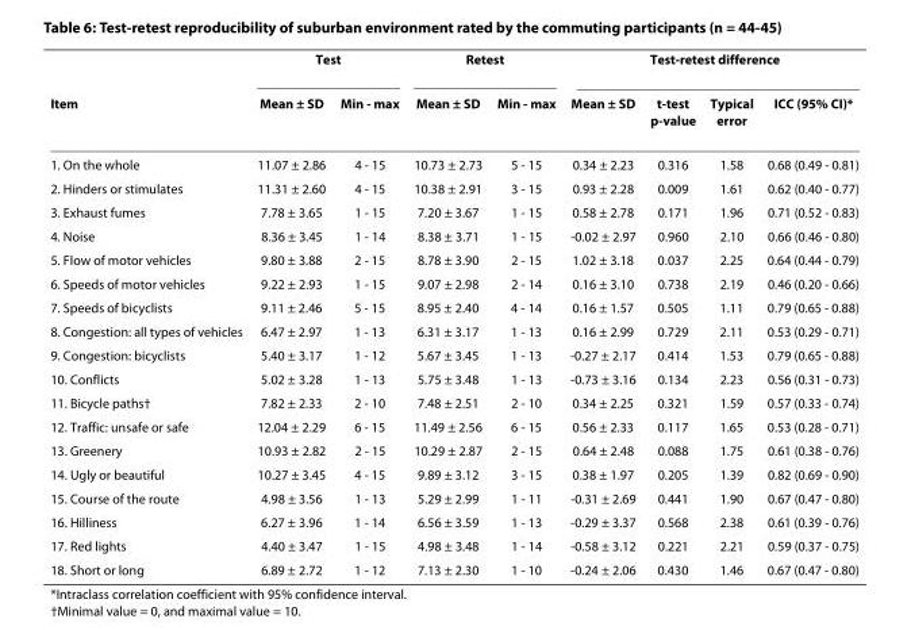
<table><thead><tr><td rowspan="2">Item</td><td colspan="2">Test</td><td colspan="2">Retest</td><td colspan="4">Test-retest difference</td></tr><tr><td>Mean ± SD</td><td>Min - max</td><td>Mean ± SD</td><td>Min - max</td><td>Mean ± SD</td><td>t-test p-value</td><td>Typical error</td><td>ICC (95% CI)*</td></tr></thead><tbody><tr><td>1. On the whole</td><td>11.07 ± 2.86</td><td>4 - 15</td><td>10.73 ± 2.73</td><td>5 - 15</td><td>0.34 ± 2.23</td><td>0.316</td><td>1.58</td><td>0.68 (0.49 - 0.81)</td></tr><tr><td>2. Hinders or stimulates</td><td>11.31 ± 2.60</td><td>4 - 15</td><td>10.38 ± 2.91</td><td>3 - 15</td><td>0.93 ± 2.28</td><td>0.009</td><td>1.61</td><td>0.62 (0.40 - 0.77)</td></tr><tr><td>3. Exhaust fumes</td><td>7.78 ± 3.65</td><td>1 - 15</td><td>7.20 ± 3.67</td><td>1 - 15</td><td>0.58 ± 2.78</td><td>0.171</td><td>1.96</td><td>0.71 (0.52 - 0.83)</td></tr><tr><td>4. Noise</td><td>8.36 ± 3.45</td><td>1 - 14</td><td>8.38 ± 3.71</td><td>1 - 15</td><td>-0.02 ± 2.97</td><td>0.960</td><td>2.10</td><td>0.66 (0.46 - 0.80)</td></tr><tr><td>5. Flow of motor vehicles</td><td>9.80 ± 3.88</td><td>2 - 15</td><td>8.78 ± 3.90</td><td>2 - 15</td><td>1.02 ± 3.18</td><td>0.037</td><td>2.25</td><td>0.64 (0.44 - 0.79)</td></tr><tr><td>6. Speeds of motor vehicles</td><td>9.22 ± 2.93</td><td>1 - 15</td><td>9.07 ± 2.98</td><td>2 - 14</td><td>0.16 ± 3.10</td><td>0.738</td><td>2.19</td><td>0.46 (0.20 - 0.66)</td></tr><tr><td>7. Speeds of bicyclists</td><td>9.11 ± 2.46</td><td>5 - 15</td><td>8.95 ± 2.40</td><td>4 - 14</td><td>0.16 ± 1.57</td><td>0.505</td><td>1.11</td><td>0.79 (0.65 - 0.88)</td></tr><tr><td>8. Congestion: all types of vehicles</td><td>6.47 ± 2.97</td><td>1 - 13</td><td>6.31 ± 3.17</td><td>1 - 13</td><td>0.16 ± 2.99</td><td>0.729</td><td>2.11</td><td>0.53 (0.29 - 0.71)</td></tr><tr><td>9. Congestion: bicyclists</td><td>5.40 ± 3.17</td><td>1 - 12</td><td>5.67 ± 3.45</td><td>1 - 13</td><td>-0.27 ± 2.17</td><td>0.414</td><td>1.53</td><td>0.79 (0.65 - 0.88)</td></tr><tr><td>10. Conflicts</td><td>5.02 ± 3.28</td><td>1 - 13</td><td>5.75 ± 3.48</td><td>1 - 13</td><td>-0.73 ± 3.16</td><td>0.134</td><td>2.23</td><td>0.56 (0.31 - 0.73)</td></tr><tr><td>11. Bicycle paths†</td><td>7.82 ± 2.33</td><td>2 - 10</td><td>7.48 ± 2.51</td><td>2 - 10</td><td>0.34 ± 2.25</td><td>0.321</td><td>1.59</td><td>0.57 (0.33 - 0.74)</td></tr><tr><td>12. Traffic: unsafe or safe</td><td>12.04 ± 2.29</td><td>6 - 15</td><td>11.49 ± 2.56</td><td>6 - 15</td><td>0.56 ± 2.33</td><td>0.117</td><td>1.65</td><td>0.53 (0.28 - 0.71)</td></tr><tr><td>13. Greenery</td><td>10.93 ± 2.82</td><td>2 - 15</td><td>10.29 ± 2.87</td><td>2 - 15</td><td>0.64 ± 2.48</td><td>0.088</td><td>1.75</td><td>0.61 (0.38 - 0.76)</td></tr><tr><td>14. Ugly or beautiful</td><td>10.27 ± 3.45</td><td>4 - 15</td><td>9.89 ± 3.12</td><td>3 - 15</td><td>0.38 ± 1.97</td><td>0.205</td><td>1.39</td><td>0.82 (0.69 - 0.90)</td></tr><tr><td>15. Course of the route</td><td>4.98 ± 3.56</td><td>1 - 13</td><td>5.29 ± 2.99</td><td>1 - 11</td><td>-0.31 ± 2.69</td><td>0.441</td><td>1.90</td><td>0.67 (0.47 - 0.80)</td></tr><tr><td>16. Hilliness</td><td>6.27 ± 3.96</td><td>1 - 14</td><td>6.56 ± 3.59</td><td>1 - 13</td><td>-0.29 ± 3.37</td><td>0.568</td><td>2.38</td><td>0.61 (0.39 - 0.76)</td></tr><tr><td>17. Red lights</td><td>4.40 ± 3.47</td><td>1 - 15</td><td>4.98 ± 3.48</td><td>1 - 14</td><td>-0.58 ± 3.12</td><td>0.221</td><td>2.21</td><td>0.59 (0.37 - 0.75)</td></tr><tr><td>18. Short or long</td><td>6.89 ± 2.72</td><td>1 - 12</td><td>7.13 ± 2.30</td><td>1 - 10</td><td>-0.24 ± 2.06</td><td>0.430</td><td>1.46</td><td>0.67 (0.47 - 0.80)</td></tr></tbody></table>